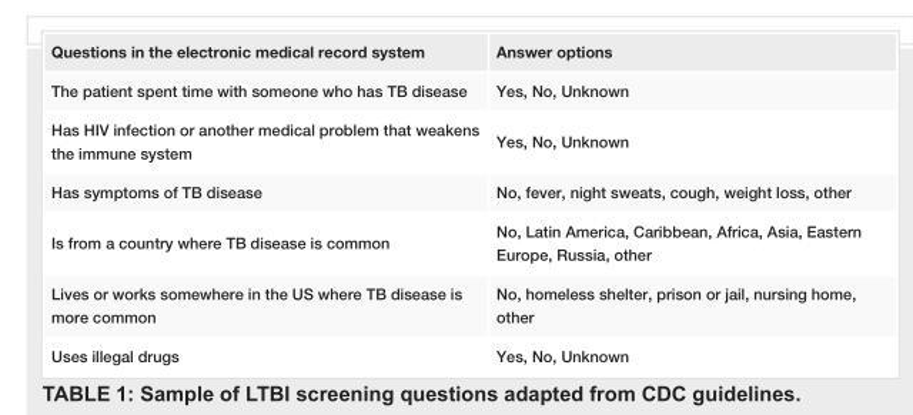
<table><tbody><tr><td>Questions in the electronic medical record system</td><td>Answer options</td></tr><tr><td>The patient spent time with someone who has TB disease</td><td>Yes, No, Unknown</td></tr><tr><td>Has HIV infection or another medical problem that weakens the immune system</td><td>Yes, No, Unknown</td></tr><tr><td>Has symptoms of TB disease</td><td>No, fever, night sweats, cough, weight loss, other</td></tr><tr><td>Is from a country where TB disease is common</td><td>No, Latin America, Caribbean, Africa, Asia, Eastern Europe, Russia, other</td></tr><tr><td>Lives or works somewhere in the US where TB disease is more common</td><td>No, homeless shelter, prison or jail, nursing home, other</td></tr><tr><td>Uses illegal drugs</td><td>Yes, No, Unknown</td></tr></tbody></table>